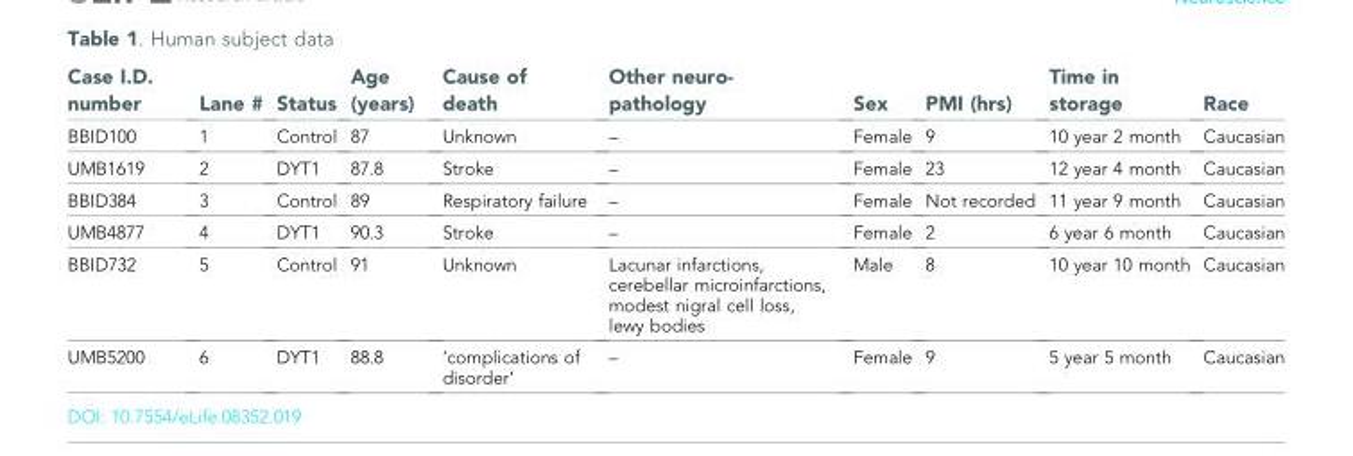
<table><thead><tr><td>Case I.D. number</td><td>Lane #</td><td>Status</td><td>Age (years)</td><td>Cause of death</td><td>Other neuro- pathology</td><td>Sex</td><td>PMI (hrs)</td><td>Time in storage</td><td>Race</td></tr></thead><tbody><tr><td>BBID100</td><td>1</td><td>Control</td><td>87</td><td>Unknown</td><td>–</td><td>Female</td><td>9</td><td>10 year 2 month</td><td>Caucasian</td></tr><tr><td>UMB1619</td><td>2</td><td>DYT1</td><td>87.8</td><td>Stroke</td><td>–</td><td>Female</td><td>23</td><td>12 year 4 month</td><td>Caucasian</td></tr><tr><td>BBID384</td><td>3</td><td>Control</td><td>89</td><td>Respiratory failure</td><td>–</td><td>Female</td><td>Not recorded</td><td>11 year 9 month</td><td>Caucasian</td></tr><tr><td>UMB4877</td><td>4</td><td>DYT1</td><td>90.3</td><td>Stroke</td><td>–</td><td>Female</td><td>2</td><td>6 year 6 month</td><td>Caucasian</td></tr><tr><td>BBID732</td><td>5</td><td>Control</td><td>91</td><td>Unknown</td><td>Lacunar infarctions, cerebellar microinfarctions, modest nigral cell loss, lewy bodies</td><td>Male</td><td>8</td><td>10 year 10 month</td><td>Caucasian</td></tr><tr><td>UMB5200</td><td>6</td><td>DYT1</td><td>88.8</td><td>‘complications of disorder’</td><td>–</td><td>Female</td><td>9</td><td>5 year 5 month</td><td>Caucasian</td></tr></tbody></table>